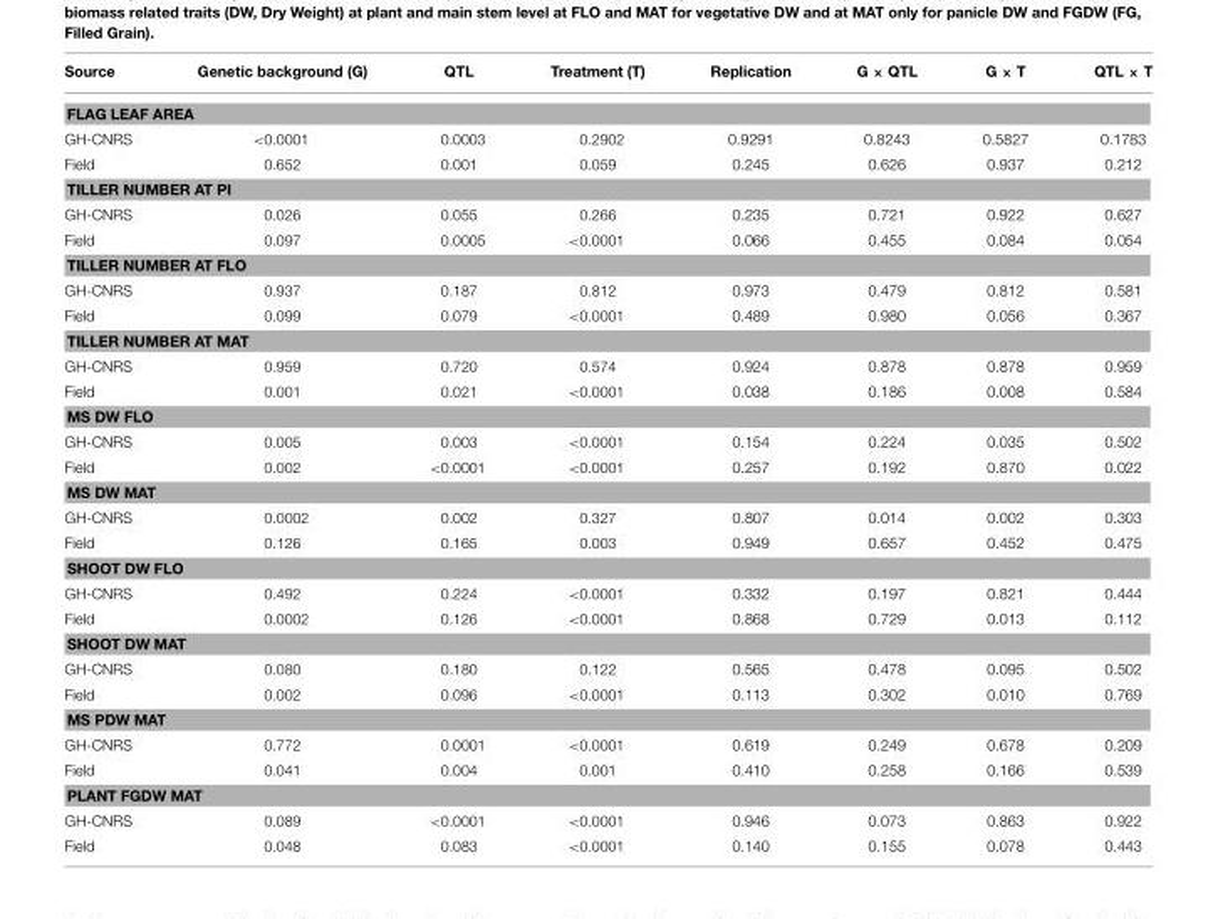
<table><thead><tr><td>Source</td><td>Genetic background (G)</td><td>QTL</td><td>Treatment (T)</td><td>Replication</td><td>G × QTL</td><td>G × T</td><td>QTL × T</td></tr></thead><tbody><tr><td colspan="8">FLAG LEAF AREA</td></tr><tr><td>GH-CNRS</td><td>&lt;0.0001</td><td>0.0003</td><td>0.2902</td><td>0.9291</td><td>0.8243</td><td>0.5827</td><td>0.1783</td></tr><tr><td>Field</td><td>0.652</td><td>0.001</td><td>0.059</td><td>0.245</td><td>0.626</td><td>0.937</td><td>0.212</td></tr><tr><td colspan="8">TILLER NUMBER AT PI</td></tr><tr><td>GH-CNRS</td><td>0.026</td><td>0.055</td><td>0.266</td><td>0.235</td><td>0.721</td><td>0.922</td><td>0.627</td></tr><tr><td>Field</td><td>0.097</td><td>0.0005</td><td>&lt;0.0001</td><td>0.066</td><td>0.455</td><td>0.084</td><td>0.054</td></tr><tr><td colspan="8">TILLER NUMBER AT FLO</td></tr><tr><td>GH-CNRS</td><td>0.937</td><td>0.187</td><td>0.812</td><td>0.973</td><td>0.479</td><td>0.812</td><td>0.581</td></tr><tr><td>Field</td><td>0.099</td><td>0.079</td><td>&lt;0.0001</td><td>0.489</td><td>0.980</td><td>0.056</td><td>0.367</td></tr><tr><td colspan="8">TILLER NUMBER AT MAT</td></tr><tr><td>GH-CNRS</td><td>0.959</td><td>0.720</td><td>0.574</td><td>0.924</td><td>0.878</td><td>0.878</td><td>0.959</td></tr><tr><td>Field</td><td>0.001</td><td>0.021</td><td>&lt;0.0001</td><td>0.038</td><td>0.186</td><td>0.008</td><td>0.584</td></tr><tr><td colspan="8">MS DW FLO</td></tr><tr><td>GH-CNRS</td><td>0.005</td><td>0.003</td><td>&lt;0.0001</td><td>0.154</td><td>0.224</td><td>0.035</td><td>0.502</td></tr><tr><td>Field</td><td>0.002</td><td>&lt;0.0001</td><td>&lt;0.0001</td><td>0.257</td><td>0.192</td><td>0.870</td><td>0.022</td></tr><tr><td colspan="8">MS DW MAT</td></tr><tr><td>GH-CNRS</td><td>0.0002</td><td>0.002</td><td>0.327</td><td>0.807</td><td>0.014</td><td>0.002</td><td>0.303</td></tr><tr><td>Field</td><td>0.126</td><td>0.165</td><td>0.003</td><td>0.949</td><td>0.657</td><td>0.452</td><td>0.475</td></tr><tr><td colspan="8">SHOOT DW FLO</td></tr><tr><td>GH-CNRS</td><td>0.492</td><td>0.224</td><td>&lt;0.0001</td><td>0.332</td><td>0.197</td><td>0.821</td><td>0.444</td></tr><tr><td>Field</td><td>0.0002</td><td>0.126</td><td>&lt;0.0001</td><td>0.868</td><td>0.729</td><td>0.013</td><td>0.112</td></tr><tr><td colspan="8">SHOOT DW MAT</td></tr><tr><td>GH-CNRS</td><td>0.080</td><td>0.180</td><td>0.122</td><td>0.565</td><td>0.478</td><td>0.095</td><td>0.502</td></tr><tr><td>Field</td><td>0.002</td><td>0.096</td><td>&lt;0.0001</td><td>0.113</td><td>0.302</td><td>0.010</td><td>0.769</td></tr><tr><td colspan="8">MS PDW MAT</td></tr><tr><td>GH-CNRS</td><td>0.772</td><td>0.0001</td><td>&lt;0.0001</td><td>0.619</td><td>0.249</td><td>0.678</td><td>0.209</td></tr><tr><td>Field</td><td>0.041</td><td>0.004</td><td>0.001</td><td>0.410</td><td>0.258</td><td>0.166</td><td>0.539</td></tr><tr><td colspan="8">PLANT FGDW MAT</td></tr><tr><td>GH-CNRS</td><td>0.089</td><td>&lt;0.0001</td><td>&lt;0.0001</td><td>0.946</td><td>0.073</td><td>0.863</td><td>0.922</td></tr><tr><td>Field</td><td>0.048</td><td>0.083</td><td>&lt;0.0001</td><td>0.140</td><td>0.155</td><td>0.078</td><td>0.443</td></tr></tbody></table>